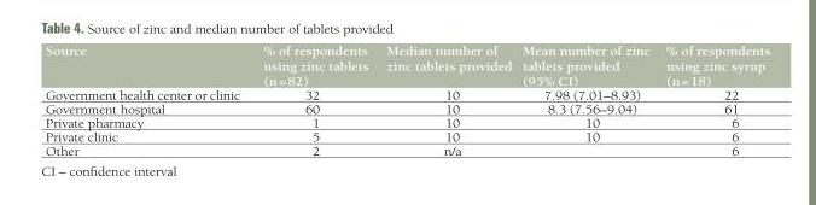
<table><thead><tr><td>Source</td><td>% of respondents using zinc tablets (n = 82)</td><td>Median number of zinc tablets provided</td><td>Mean number of zinc tablets provided (95% CI)</td><td>% of respondents using zinc syrup (n = 18)</td></tr></thead><tbody><tr><td>Government health center or clinic</td><td>32</td><td>10</td><td>7.98 (7.01–8.93)</td><td>22</td></tr><tr><td>Government hospital</td><td>60</td><td>10</td><td>8.3 (7.56–9.04)</td><td>61</td></tr><tr><td>Private pharmacy</td><td>1</td><td>10</td><td>10</td><td>6</td></tr><tr><td>Private clinic</td><td>5</td><td>10</td><td>10</td><td>6</td></tr><tr><td>Other</td><td>2</td><td>n/a</td><td></td><td>6</td></tr></tbody></table>